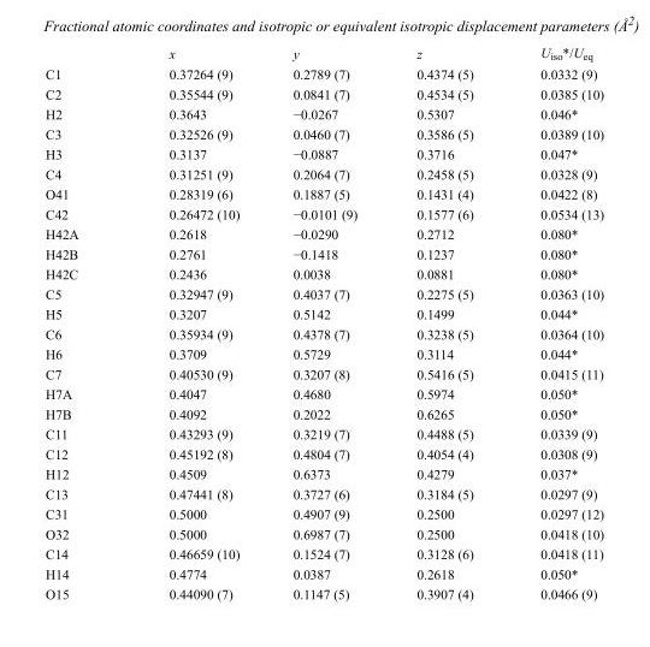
<table><thead><tr><td></td><td>x</td><td>y</td><td>z</td><td>U<sub>iso</sub>*/U<sub>eq</sub></td></tr></thead><tbody><tr><td>C1</td><td>0.37264 (9)</td><td>0.2789 (7)</td><td>0.4374 (5)</td><td>0.0332 (9)</td></tr><tr><td>C2</td><td>0.35544 (9)</td><td>0.0841 (7)</td><td>0.4534 (5)</td><td>0.0385 (10)</td></tr><tr><td>H2</td><td>0.3643</td><td>−0.0267</td><td>0.5307</td><td>0.046*</td></tr><tr><td>C3</td><td>0.32526 (9)</td><td>0.0460 (7)</td><td>0.3586 (5)</td><td>0.0389 (10)</td></tr><tr><td>H3</td><td>0.3137</td><td>−0.0887</td><td>0.3716</td><td>0.047*</td></tr><tr><td>C4</td><td>0.31251 (9)</td><td>0.2064 (7)</td><td>0.2458 (5)</td><td>0.0328 (9)</td></tr><tr><td>O41</td><td>0.28319 (6)</td><td>0.1887 (5)</td><td>0.1431 (4)</td><td>0.0422 (8)</td></tr><tr><td>C42</td><td>0.26472 (10)</td><td>−0.0101 (9)</td><td>0.1577 (6)</td><td>0.0534 (13)</td></tr><tr><td>H42A</td><td>0.2618</td><td>−0.0290</td><td>0.2712</td><td>0.080*</td></tr><tr><td>H42B</td><td>0.2761</td><td>−0.1418</td><td>0.1237</td><td>0.080*</td></tr><tr><td>H42C</td><td>0.2436</td><td>0.0038</td><td>0.0881</td><td>0.080*</td></tr><tr><td>C5</td><td>0.32947 (9)</td><td>0.4037 (7)</td><td>0.2275 (5)</td><td>0.0363 (10)</td></tr><tr><td>H5</td><td>0.3207</td><td>0.5142</td><td>0.1499</td><td>0.044*</td></tr><tr><td>C6</td><td>0.35934 (9)</td><td>0.4378 (7)</td><td>0.3238 (5)</td><td>0.0364 (10)</td></tr><tr><td>H6</td><td>0.3709</td><td>0.5729</td><td>0.3114</td><td>0.044*</td></tr><tr><td>C7</td><td>0.40530 (9)</td><td>0.3207 (8)</td><td>0.5416 (5)</td><td>0.0415 (11)</td></tr><tr><td>H7A</td><td>0.4047</td><td>0.4680</td><td>0.5974</td><td>0.050*</td></tr><tr><td>H7B</td><td>0.4092</td><td>0.2022</td><td>0.6265</td><td>0.050*</td></tr><tr><td>C11</td><td>0.43293 (9)</td><td>0.3219 (7)</td><td>0.4488 (5)</td><td>0.0339 (9)</td></tr><tr><td>C12</td><td>0.45192 (8)</td><td>0.4804 (7)</td><td>0.4054 (4)</td><td>0.0308 (9)</td></tr><tr><td>H12</td><td>0.4509</td><td>0.6373</td><td>0.4279</td><td>0.037*</td></tr><tr><td>C13</td><td>0.47441 (8)</td><td>0.3727 (6)</td><td>0.3184 (5)</td><td>0.0297 (9)</td></tr><tr><td>C31</td><td>0.5000</td><td>0.4907 (9)</td><td>0.2500</td><td>0.0297 (12)</td></tr><tr><td>O32</td><td>0.5000</td><td>0.6987 (7)</td><td>0.2500</td><td>0.0418 (10)</td></tr><tr><td>C14</td><td>0.46659 (10)</td><td>0.1524 (7)</td><td>0.3128 (6)</td><td>0.0418 (11)</td></tr><tr><td>H14</td><td>0.4774</td><td>0.0387</td><td>0.2618</td><td>0.050*</td></tr><tr><td>O15</td><td>0.44090 (7)</td><td>0.1147 (5)</td><td>0.3907 (4)</td><td>0.0466 (9)</td></tr></tbody></table>